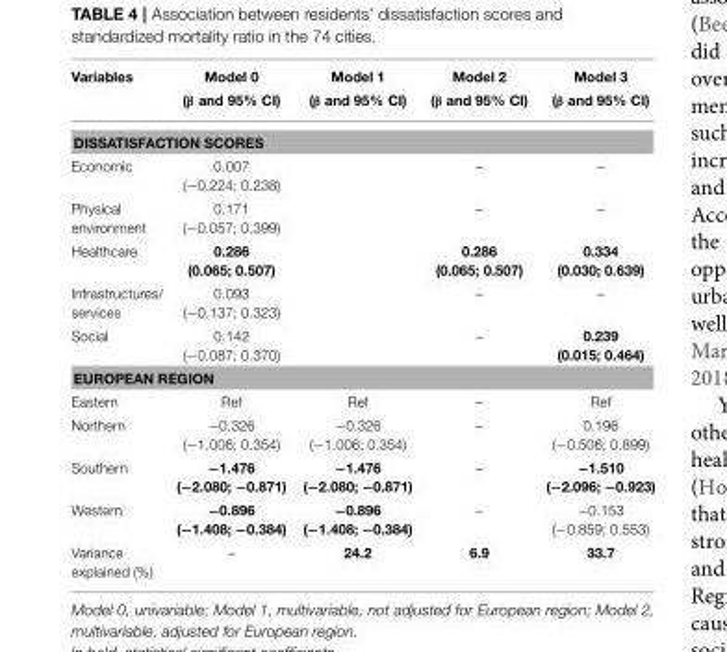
<table><thead><tr><td>Variables</td><td>Model 0 (β and 95% CI)</td><td>Model 1 (β and 95% CI)</td><td>Model 2 (β and 95% CI)</td><td>Model 3 (β and 95% CI)</td></tr></thead><tbody><tr><td colspan="5">DISSATISFACTION SCORES</td></tr><tr><td>Economic</td><td>0.007 (−0.224; 0.238)</td><td></td><td>–</td><td>–</td></tr><tr><td>Physical environment</td><td>0.171 (−0.057; 0.399)</td><td></td><td>–</td><td>–</td></tr><tr><td>Healthcare</td><td>0.286 (0.065; 0.507)</td><td></td><td>0.286 (0.065; 0.507)</td><td>0.334 (0.030; 0.639)</td></tr><tr><td>Infrastructures/ services</td><td>0.093 (−0.137; 0.323)</td><td></td><td>–</td><td>–</td></tr><tr><td>Social</td><td>0.142 (−0.087; 0.370)</td><td></td><td>–</td><td>0.239 (0.015; 0.464)</td></tr><tr><td colspan="5">EUROPEAN REGION</td></tr><tr><td>Eastern</td><td>Ref</td><td>Ref</td><td>–</td><td>Ref</td></tr><tr><td>Northern</td><td>−0.326 (−1.006; 0.354)</td><td>−0.326 (−1.006; 0.354)</td><td>–</td><td>0.196 (−0.506; 0.899)</td></tr><tr><td>Southern</td><td>−1.476 (−2.080; −0.871)</td><td>−1.476 (−2.080; −0.871)</td><td>–</td><td>−1.510 (−2.096; −0.923)</td></tr><tr><td>Western</td><td>−0.896 (−1.408; −0.384)</td><td>−0.896 (−1.408; −0.384)</td><td>–</td><td>−0.153 (−0.859; 0.553)</td></tr><tr><td>Variance explained (%)</td><td>–</td><td>24.2</td><td>6.9</td><td>33.7</td></tr></tbody></table>